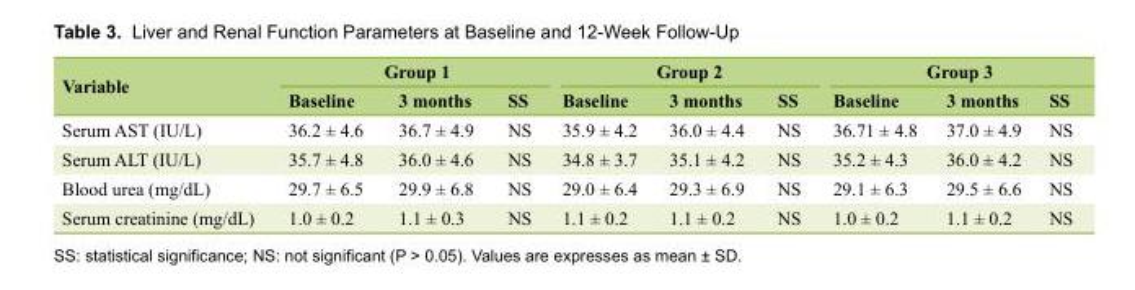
<table><thead><tr><td rowspan="2">Variable</td><td colspan="3">Group 1</td><td colspan="3">Group 2</td><td colspan="3">Group 3</td></tr><tr><td>Baseline</td><td>3 months</td><td>SS</td><td>Baseline</td><td>3 months</td><td>SS</td><td>Baseline</td><td>3 months</td><td>SS</td></tr></thead><tbody><tr><td>Serum AST (IU/L)</td><td>36.2 ± 4.6</td><td>36.7 ± 4.9</td><td>NS</td><td>35.9 ± 4.2</td><td>36.0 ± 4.4</td><td>NS</td><td>36.71 ± 4.8</td><td>37.0 ± 4.9</td><td>NS</td></tr><tr><td>Serum ALT (IU/L)</td><td>35.7 ± 4.8</td><td>36.0 ± 4.6</td><td>NS</td><td>34.8 ± 3.7</td><td>35.1 ± 4.2</td><td>NS</td><td>35.2 ± 4.3</td><td>36.0 ± 4.2</td><td>NS</td></tr><tr><td>Blood urea (mg/dL)</td><td>29.7 ± 6.5</td><td>29.9 ± 6.8</td><td>NS</td><td>29.0 ± 6.4</td><td>29.3 ± 6.9</td><td>NS</td><td>29.1 ± 6.3</td><td>29.5 ± 6.6</td><td>NS</td></tr><tr><td>Serum creatinine (mg/dL)</td><td>1.0 ± 0.2</td><td>1.1 ± 0.3</td><td>NS</td><td>1.1 ± 0.2</td><td>1.1 ± 0.2</td><td>NS</td><td>1.0 ± 0.2</td><td>1.1 ± 0.2</td><td>NS</td></tr></tbody></table>